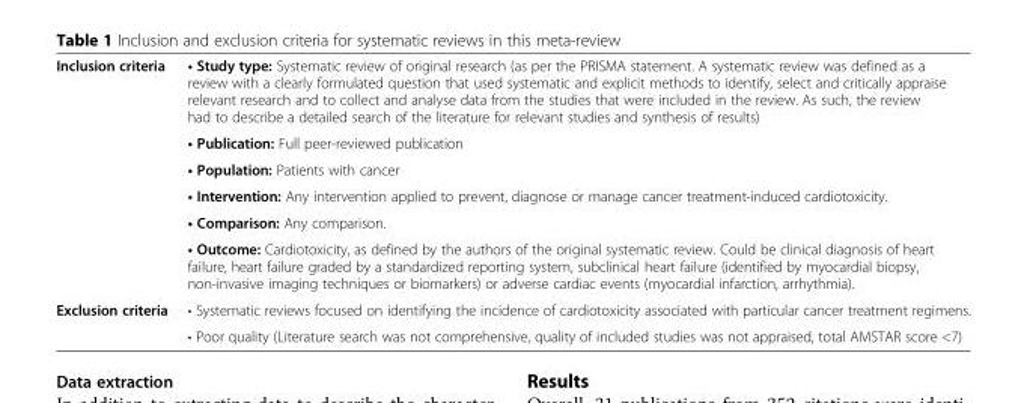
<table><tbody><tr><td rowspan="6">Inclusion criteria</td><td>• Study type: Systematic review of original research (as per the PRISMA statement. A systematic review was defined as a review with a clearly formulated question that used systematic and explicit methods to identify, select and critically appraise relevant research and to collect and analyse data from the studies that were included in the review. As such, the review had to describe a detailed search of the literature for relevant studies and synthesis of results)</td></tr><tr><td>• Publication: Full peer-reviewed publication</td></tr><tr><td>• Population: Patients with cancer</td></tr><tr><td>• Intervention: Any intervention applied to prevent, diagnose or manage cancer treatment-induced cardiotoxicity.</td></tr><tr><td>• Comparison: Any comparison.</td></tr><tr><td>• Outcome: Cardiotoxicity, as defined by the authors of the original systematic review. Could be clinical diagnosis of heart failure, heart failure graded by a standardized reporting system, subclinical heart failure (identified by myocardial biopsy, non-invasive imaging techniques or biomarkers) or adverse cardiac events (myocardial infarction, arrhythmia).</td></tr><tr><td rowspan="2">Exclusion criteria</td><td>• Systematic reviews focused on identifying the incidence of cardiotoxicity associated with particular cancer treatment regimens.</td></tr><tr><td>• Poor quality (Literature search was not comprehensive, quality of included studies was not appraised, total AMSTAR score &lt;7)</td></tr></tbody></table>